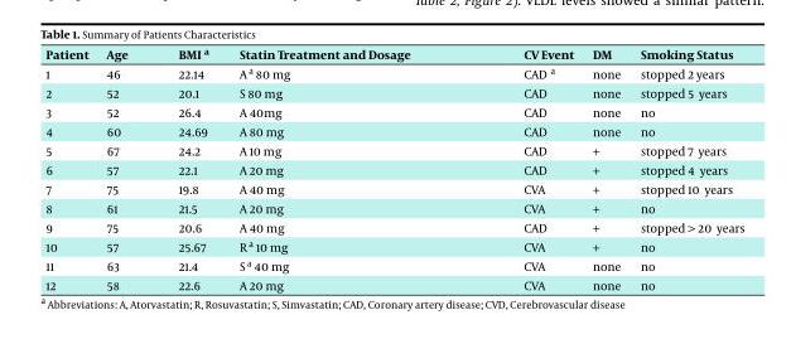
<table><thead><tr><td>Patient</td><td>Age</td><td>BMI a</td><td>Statin Treatment and Dosage</td><td>CV Event</td><td>DM</td><td>Smoking Status</td></tr></thead><tbody><tr><td>1</td><td>46</td><td>22.14</td><td>A a 80 mg</td><td>CAD a</td><td>none</td><td>stopped 2 years</td></tr><tr><td>2</td><td>52</td><td>20.1</td><td>S 80 mg</td><td>CAD</td><td>none</td><td>stopped 5 years</td></tr><tr><td>3</td><td>52</td><td>26.4</td><td>A 40mg</td><td>CAD</td><td>none</td><td>no</td></tr><tr><td>4</td><td>60</td><td>24.69</td><td>A 80 mg</td><td>CAD</td><td>none</td><td>no</td></tr><tr><td>5</td><td>67</td><td>24.2</td><td>A 10 mg</td><td>CAD</td><td>+</td><td>stopped 7 years</td></tr><tr><td>6</td><td>57</td><td>22.1</td><td>A 20 mg</td><td>CAD</td><td>+</td><td>stopped 4 years</td></tr><tr><td>7</td><td>75</td><td>19.8</td><td>A 40 mg</td><td>CVA</td><td>+</td><td>stopped 10 years</td></tr><tr><td>8</td><td>61</td><td>21.5</td><td>A 20 mg</td><td>CVA</td><td>+</td><td>no</td></tr><tr><td>9</td><td>75</td><td>20.6</td><td>A 40 mg</td><td>CAD</td><td>+</td><td>stopped &gt; 20 years</td></tr><tr><td>10</td><td>57</td><td>25.67</td><td>R a 10 mg</td><td>CVA</td><td>+</td><td>no</td></tr><tr><td>11</td><td>63</td><td>21.4</td><td>S a 40 mg</td><td>CVA</td><td>none</td><td>no</td></tr><tr><td>12</td><td>58</td><td>22.6</td><td>A 20 mg</td><td>CVA</td><td>none</td><td>no</td></tr></tbody></table>